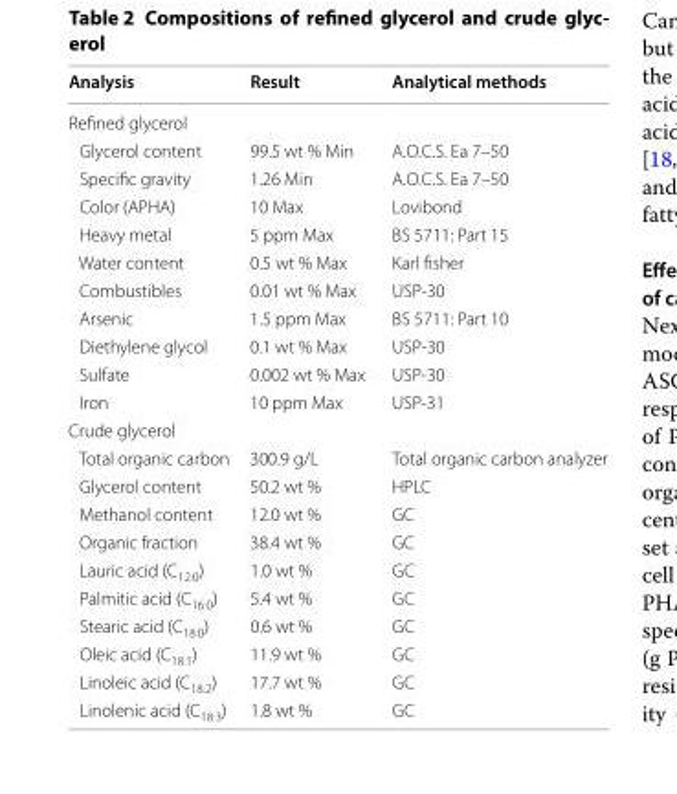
<table><thead><tr><td>Analysis</td><td>Result</td><td>Analytical methods</td></tr></thead><tbody><tr><td colspan="3">Refined glycerol</td></tr><tr><td>Glycerol content</td><td>99.5 wt % Min</td><td>A.O.C.S. Ea 7–50</td></tr><tr><td>Specific gravity</td><td>1.26 Min</td><td>A.O.C.S. Ea 7–50</td></tr><tr><td>Color (APHA)</td><td>10 Max</td><td>Lovibond</td></tr><tr><td>Heavy metal</td><td>5 ppm Max</td><td>BS 5711: Part 15</td></tr><tr><td>Water content</td><td>0.5 wt % Max</td><td>Karl fisher</td></tr><tr><td>Combustibles</td><td>0.01 wt % Max</td><td>USP-30</td></tr><tr><td>Arsenic</td><td>1.5 ppm Max</td><td>BS 5711: Part 10</td></tr><tr><td>Diethylene glycol</td><td>0.1 wt % Max</td><td>USP-30</td></tr><tr><td>Sulfate</td><td>0.002 wt % Max</td><td>USP-30</td></tr><tr><td>Iron</td><td>10 ppm Max</td><td>USP-31</td></tr><tr><td colspan="3">Crude glycerol</td></tr><tr><td>Total organic carbon</td><td>300.9 g/L</td><td>Total organic carbon analyzer</td></tr><tr><td>Glycerol content</td><td>50.2 wt %</td><td>HPLC</td></tr><tr><td>Methanol content</td><td>12.0 wt %</td><td>GC</td></tr><tr><td>Organic fraction</td><td>38.4 wt %</td><td>GC</td></tr><tr><td>Lauric acid (C<sub>12:0</sub>)</td><td>1.0 wt %</td><td>GC</td></tr><tr><td>Palmitic acid (C<sub>16:0</sub>)</td><td>5.4 wt %</td><td>GC</td></tr><tr><td>Stearic acid (C<sub>18:0</sub>)</td><td>0.6 wt %</td><td>GC</td></tr><tr><td>Oleic acid (C<sub>18:1</sub>)</td><td>11.9 wt %</td><td>GC</td></tr><tr><td>Linoleic acid (C<sub>18:2</sub>)</td><td>17.7 wt %</td><td>GC</td></tr><tr><td>Linolenic acid (C<sub>18:3</sub>)</td><td>1.8 wt %</td><td>GC</td></tr></tbody></table>